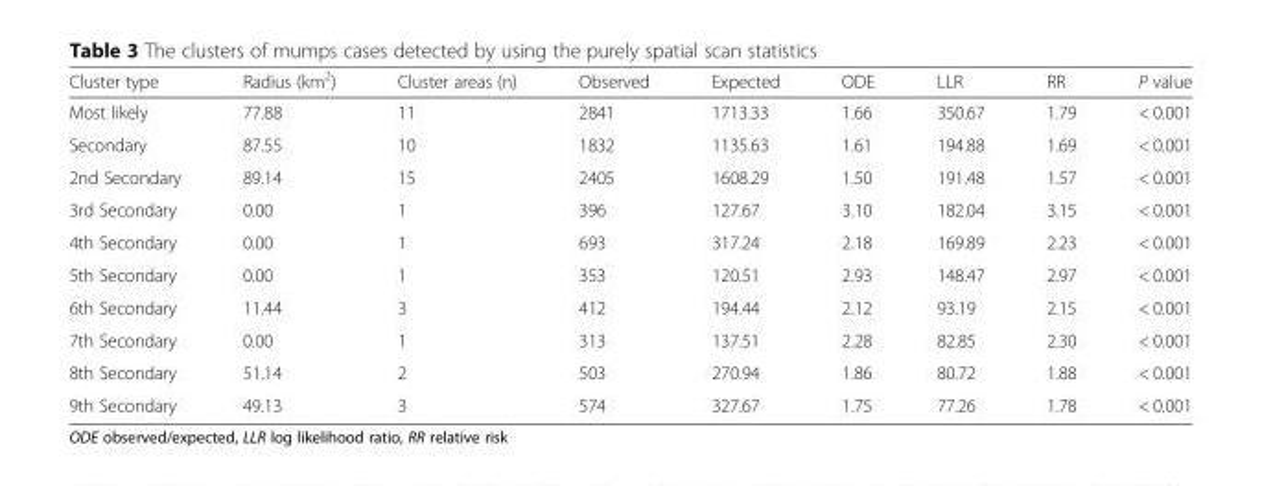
<table><thead><tr><td>Cluster type</td><td>Radius (km<sup>2</sup>)</td><td>Cluster areas (n)</td><td>Observed</td><td>Expected</td><td>ODE</td><td>LLR</td><td>RR</td><td>P value</td></tr></thead><tbody><tr><td>Most likely</td><td>77.88</td><td>11</td><td>2841</td><td>1713.33</td><td>1.66</td><td>350.67</td><td>1.79</td><td>&lt; 0.001</td></tr><tr><td>Secondary</td><td>87.55</td><td>10</td><td>1832</td><td>1135.63</td><td>1.61</td><td>194.88</td><td>1.69</td><td>&lt; 0.001</td></tr><tr><td>2nd Secondary</td><td>89.14</td><td>15</td><td>2405</td><td>1608.29</td><td>1.50</td><td>191.48</td><td>1.57</td><td>&lt; 0.001</td></tr><tr><td>3rd Secondary</td><td>0.00</td><td>1</td><td>396</td><td>127.67</td><td>3.10</td><td>182.04</td><td>3.15</td><td>&lt; 0.001</td></tr><tr><td>4th Secondary</td><td>0.00</td><td>1</td><td>693</td><td>317.24</td><td>2.18</td><td>169.89</td><td>2.23</td><td>&lt; 0.001</td></tr><tr><td>5th Secondary</td><td>0.00</td><td>1</td><td>353</td><td>120.51</td><td>2.93</td><td>148.47</td><td>2.97</td><td>&lt; 0.001</td></tr><tr><td>6th Secondary</td><td>11.44</td><td>3</td><td>412</td><td>194.44</td><td>2.12</td><td>93.19</td><td>2.15</td><td>&lt; 0.001</td></tr><tr><td>7th Secondary</td><td>0.00</td><td>1</td><td>313</td><td>137.51</td><td>2.28</td><td>82.85</td><td>2.30</td><td>&lt; 0.001</td></tr><tr><td>8th Secondary</td><td>51.14</td><td>2</td><td>503</td><td>270.94</td><td>1.86</td><td>80.72</td><td>1.88</td><td>&lt; 0.001</td></tr><tr><td>9th Secondary</td><td>49.13</td><td>3</td><td>574</td><td>327.67</td><td>1.75</td><td>77.26</td><td>1.78</td><td>&lt; 0.001</td></tr></tbody></table>